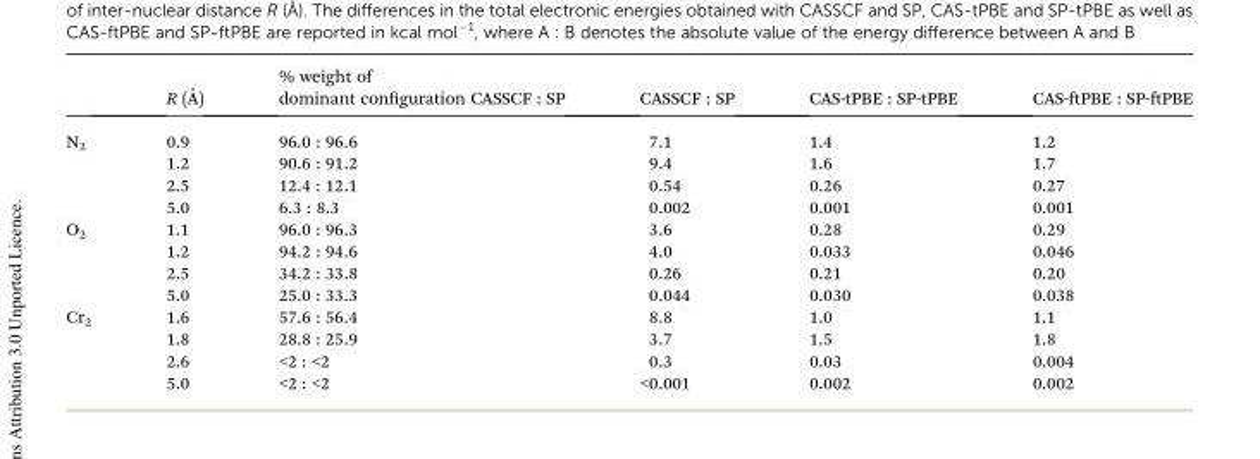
<table><thead><tr><td></td><td>R (˚A)</td><td>% weight of dominant conguration CASSCF : SP</td><td>CASSCF : SP</td><td>CAS-tPBE : SP-tPBE</td><td>CAS-PBE : SP-PBE</td></tr></thead><tbody><tr><td rowspan="4">N<sub>2</sub></td><td>0.9</td><td>96.0 : 96.6</td><td>7.1</td><td>1.4</td><td>1.2</td></tr><tr><td>1.2</td><td>90.6 : 91.2</td><td>9.4</td><td>1.6</td><td>1.7</td></tr><tr><td>2.5</td><td>12.4 : 12.1</td><td>0.54</td><td>0.26</td><td>0.27</td></tr><tr><td>5.0</td><td>6.3 : 8.3</td><td>0.002</td><td>0.001</td><td>0.001</td></tr><tr><td rowspan="4">O<sub>2</sub></td><td>1.1</td><td>96.0 : 96.3</td><td>3.6</td><td>0.28</td><td>0.29</td></tr><tr><td>1.2</td><td>94.2 : 94.6</td><td>4.0</td><td>0.033</td><td>0.046</td></tr><tr><td>2.5</td><td>34.2 : 33.8</td><td>0.26</td><td>0.21</td><td>0.20</td></tr><tr><td>5.0</td><td>25.0 : 33.3</td><td>0.044</td><td>0.030</td><td>0.038</td></tr><tr><td rowspan="4">Cr<sub>2</sub></td><td>1.6</td><td>57.6 : 56.4</td><td>8.8</td><td>1.0</td><td>1.1</td></tr><tr><td>1.8</td><td>28.8 : 25.9</td><td>3.7</td><td>1.5</td><td>1.8</td></tr><tr><td>2.6</td><td>&lt;2 : &lt;2</td><td>0.3</td><td>0.03</td><td>0.004</td></tr><tr><td>5.0</td><td>&lt;2 : &lt;2</td><td>&lt;0.001</td><td>0.002</td><td>0.002</td></tr></tbody></table>